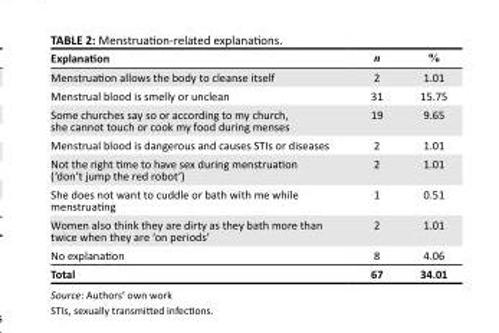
<table><thead><tr><td>Explanation</td><td>n</td><td>%</td></tr></thead><tbody><tr><td>Menstruation allows the body to cleanse itself</td><td>2</td><td>1.01</td></tr><tr><td>Menstrual blood is smelly or unclean</td><td>31</td><td>15.75</td></tr><tr><td>Some churches say so or according to my church, she cannot touch or cook my food during menses</td><td>19</td><td>9.65</td></tr><tr><td>Menstrual blood is dangerous and causes STIs or diseases</td><td>2</td><td>1.01</td></tr><tr><td>Not the right time to have sex during menstruation (‘don’t jump the red robot’)</td><td>2</td><td>1.01</td></tr><tr><td>She does not want to cuddle or bath with me while menstruating</td><td>1</td><td>0.51</td></tr><tr><td>Women also think they are dirty as they bath more than twice when they are ‘on periods’</td><td>2</td><td>1.01</td></tr><tr><td>No explanation</td><td>8</td><td>4.06</td></tr><tr><td>Total</td><td>67</td><td>34.01</td></tr></tbody></table>